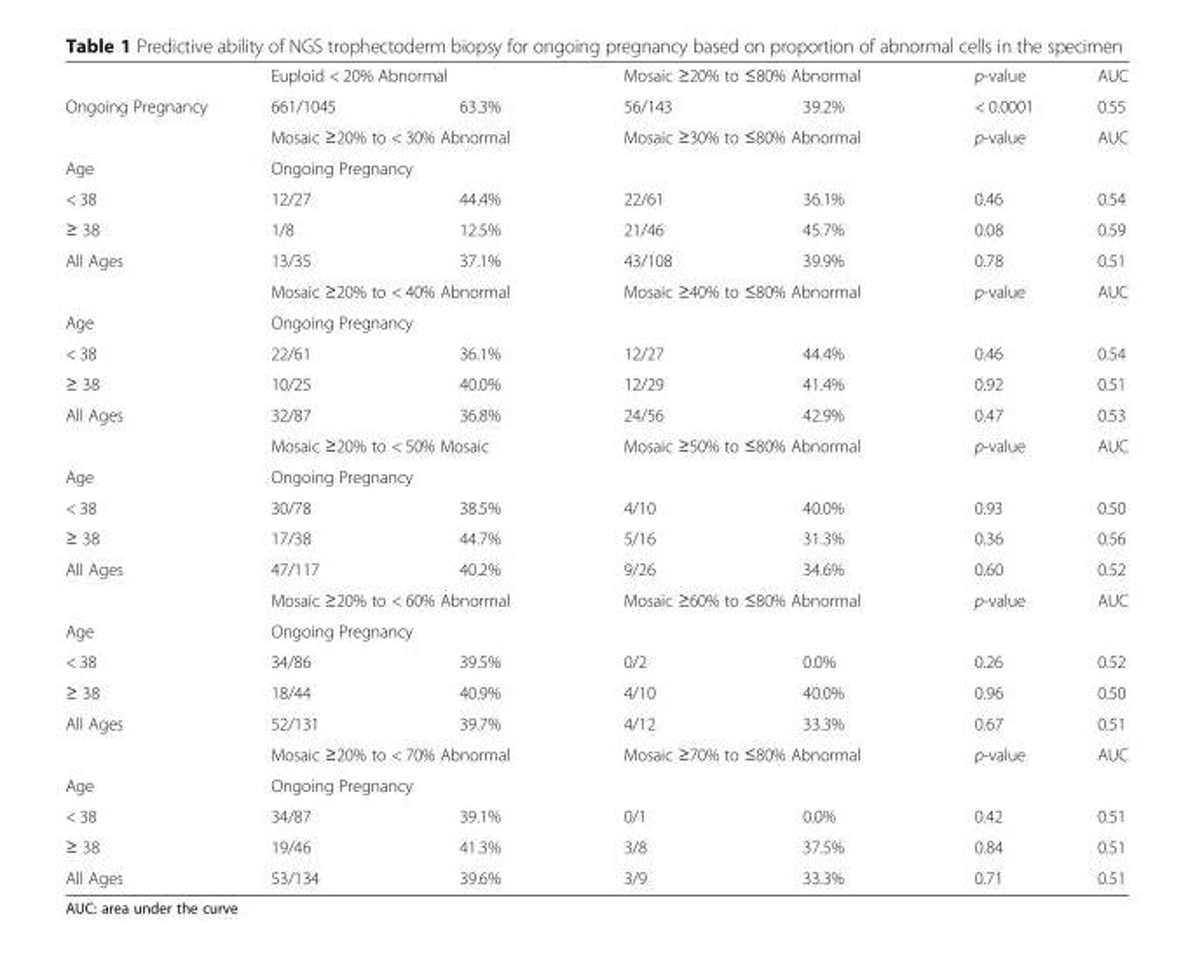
<table><thead><tr><td rowspan="2">Ongoing Pregnancy</td><td colspan="2">Euploid &lt; 20% Abnormal</td><td colspan="2">Mosaic ≥20% to ≤80% Abnormal</td><td rowspan="2">p-value &lt; 0.0001</td><td rowspan="2">AUC 0.55</td></tr><tr><td>661/1045</td><td>63.3%</td><td>56/143</td><td>39.2%</td></tr></thead><tbody><tr><td></td><td colspan="2">Mosaic ≥20% to &lt; 30% Abnormal</td><td colspan="2">Mosaic ≥30% to ≤80% Abnormal</td><td rowspan="2">p-value</td><td rowspan="2">AUC</td></tr><tr><td>Age</td><td colspan="4">Ongoing Pregnancy</td></tr><tr><td>&lt; 38</td><td>12/27</td><td>44.4%</td><td>22/61</td><td>36.1%</td><td>0.46</td><td>0.54</td></tr><tr><td>≥ 38</td><td>1/8</td><td>12.5%</td><td>21/46</td><td>45.7%</td><td>0.08</td><td>0.59</td></tr><tr><td rowspan="2">All Ages</td><td>13/35</td><td>37.1%</td><td>43/108</td><td>39.9%</td><td>0.78</td><td>0.51</td></tr><tr><td colspan="2">Mosaic ≥20% to &lt; 40% Abnormal</td><td colspan="2">Mosaic ≥40% to ≤80% Abnormal</td><td rowspan="2">p-value</td><td rowspan="2">AUC</td></tr><tr><td>Age</td><td colspan="4">Ongoing Pregnancy</td></tr><tr><td>&lt; 38</td><td>22/61</td><td>36.1%</td><td>12/27</td><td>44.4%</td><td>0.46</td><td>0.54</td></tr><tr><td>≥ 38</td><td>10/25</td><td>40.0%</td><td>12/29</td><td>41.4%</td><td>0.92</td><td>0.51</td></tr><tr><td rowspan="2">All Ages</td><td>32/87</td><td>36.8%</td><td>24/56</td><td>42.9%</td><td>0.47</td><td>0.53</td></tr><tr><td colspan="2">Mosaic ≥20% to &lt; 50% Mosaic</td><td colspan="2">Mosaic ≥50% to ≤80% Abnormal</td><td rowspan="2">p-value</td><td rowspan="2">AUC</td></tr><tr><td>Age</td><td colspan="4">Ongoing Pregnancy</td></tr><tr><td>&lt; 38</td><td>30/78</td><td>38.5%</td><td>4/10</td><td>40.0%</td><td>0.93</td><td>0.50</td></tr><tr><td>≥ 38</td><td>17/38</td><td>44.7%</td><td>5/16</td><td>31.3%</td><td>0.36</td><td>0.56</td></tr><tr><td rowspan="2">All Ages</td><td>47/117</td><td>40.2%</td><td>9/26</td><td>34.6%</td><td>0.60</td><td>0.52</td></tr><tr><td colspan="2">Mosaic ≥20% to &lt; 60% Abnormal</td><td colspan="2">Mosaic ≥60% to ≤80% Abnormal</td><td rowspan="2">p-value</td><td rowspan="2">AUC</td></tr><tr><td>Age</td><td colspan="4">Ongoing Pregnancy</td></tr><tr><td>&lt; 38</td><td>34/86</td><td>39.5%</td><td>0/2</td><td>0.0%</td><td>0.26</td><td>0.52</td></tr><tr><td>≥ 38</td><td>18/44</td><td>40.9%</td><td>4/10</td><td>40.0%</td><td>0.96</td><td>0.50</td></tr><tr><td rowspan="2">All Ages</td><td>52/131</td><td>39.7%</td><td>4/12</td><td>33.3%</td><td>0.67</td><td>0.51</td></tr><tr><td colspan="2">Mosaic ≥20% to &lt; 70% Abnormal</td><td colspan="2">Mosaic ≥70% to ≤80% Abnormal</td><td rowspan="2">p-value</td><td rowspan="2">AUC</td></tr><tr><td>Age</td><td colspan="4">Ongoing Pregnancy</td></tr><tr><td>&lt; 38</td><td>34/87</td><td>39.1%</td><td>0/1</td><td>0.0%</td><td>0.42</td><td>0.51</td></tr><tr><td>≥ 38</td><td>19/46</td><td>41.3%</td><td>3/8</td><td>37.5%</td><td>0.84</td><td>0.51</td></tr><tr><td>All Ages</td><td>53/134</td><td>39.6%</td><td>3/9</td><td>33.3%</td><td>0.71</td><td>0.51</td></tr></tbody></table>